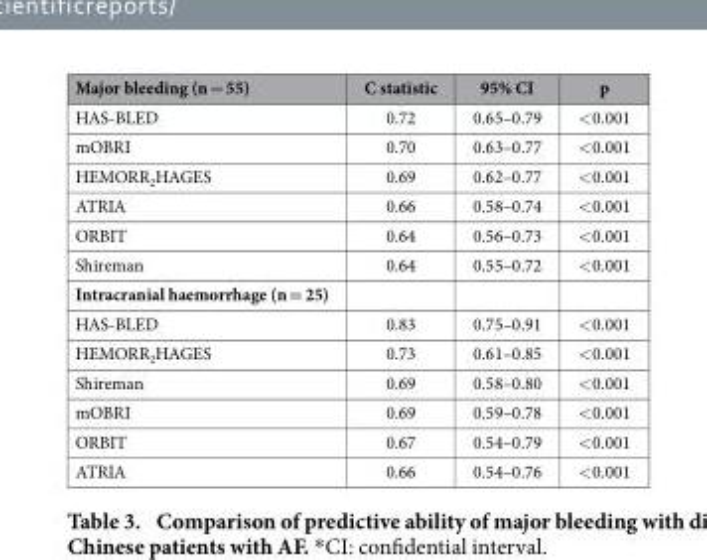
<table><thead><tr><td>Major bleeding (n = 55)</td><td>C statistic</td><td>95% CI</td><td>p</td></tr></thead><tbody><tr><td>HAS-BLED</td><td>0.72</td><td>0.65–0.79</td><td>&lt; 0.001</td></tr><tr><td>mOBRI</td><td>0.70</td><td>0.63–0.77</td><td>&lt; 0.001</td></tr><tr><td>HEMORR<sub>2</sub>HAGES</td><td>0.69</td><td>0.62–0.77</td><td>&lt; 0.001</td></tr><tr><td>ATRIA</td><td>0.66</td><td>0.58–0.74</td><td>&lt; 0.001</td></tr><tr><td>ORBIT</td><td>0.64</td><td>0.56–0.73</td><td>&lt; 0.001</td></tr><tr><td>Shireman</td><td>0.64</td><td>0.55–0.72</td><td>&lt; 0.001</td></tr><tr><td colspan="4">Intracranial haemorrhage (n = 25)</td></tr><tr><td>HAS-BLED</td><td>0.83</td><td>0.75–0.91</td><td>&lt; 0.001</td></tr><tr><td>HEMORR<sub>2</sub>HAGES</td><td>0.73</td><td>0.61–0.85</td><td>&lt; 0.001</td></tr><tr><td>Shireman</td><td>0.69</td><td>0.58–0.80</td><td>&lt; 0.001</td></tr><tr><td>mOBRI</td><td>0.69</td><td>0.59–0.78</td><td>&lt; 0.001</td></tr><tr><td>ORBIT</td><td>0.67</td><td>0.54–0.79</td><td>&lt; 0.001</td></tr><tr><td>ATRIA</td><td>0.66</td><td>0.54–0.76</td><td>&lt; 0.001</td></tr></tbody></table>